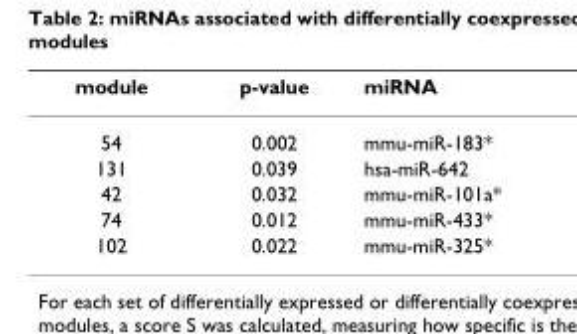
<table><thead><tr><td>module</td><td>p-value</td><td>miRNA</td></tr></thead><tbody><tr><td>54</td><td>0.002</td><td>mmu-miR-183*</td></tr><tr><td>131</td><td>0.039</td><td>hsa-miR-642</td></tr><tr><td>42</td><td>0.032</td><td>mmu-miR-101a*</td></tr><tr><td>74</td><td>0.012</td><td>mmu-miR-433*</td></tr><tr><td>102</td><td>0.022</td><td>mmu-miR-325*</td></tr></tbody></table>